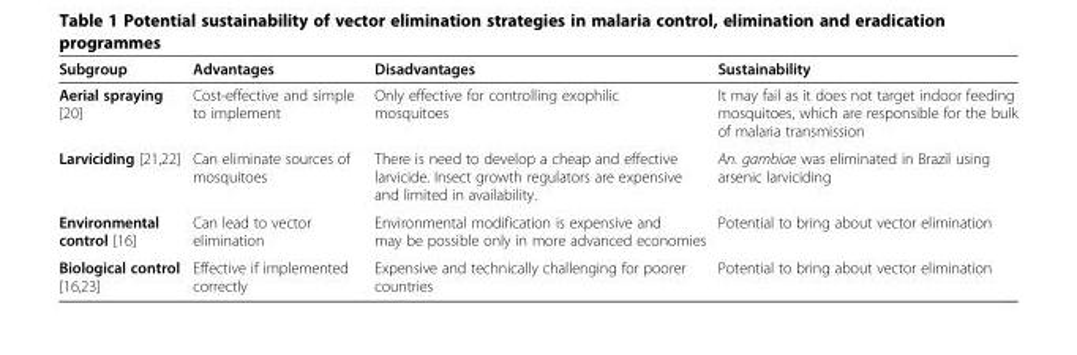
<table><thead><tr><td>Subgroup</td><td>Advantages</td><td>Disadvantages</td><td>Sustainability</td></tr></thead><tbody><tr><td>Aerial spraying [20]</td><td>Cost-effective and simple to implement</td><td>Only effective for controlling exophilic mosquitoes</td><td>It may fail as it does not target indoor feeding mosquitoes, which are responsible for the bulk of malaria transmission</td></tr><tr><td>Larviciding [21,22]</td><td>Can eliminate sources of mosquitoes</td><td>There is need to develop a cheap and effective larvicide. Insect growth regulators are expensive and limited in availability.</td><td>An. gambiae was eliminated in Brazil using arsenic larviciding</td></tr><tr><td>Environmental control [16]</td><td>Can lead to vector elimination</td><td>Environmental modification is expensive and may be possible only in more advanced economies</td><td>Potential to bring about vector elimination</td></tr><tr><td>Biological control [16,23]</td><td>Effective if implemented correctly</td><td>Expensive and technically challenging for poorer countries</td><td>Potential to bring about vector elimination</td></tr></tbody></table>